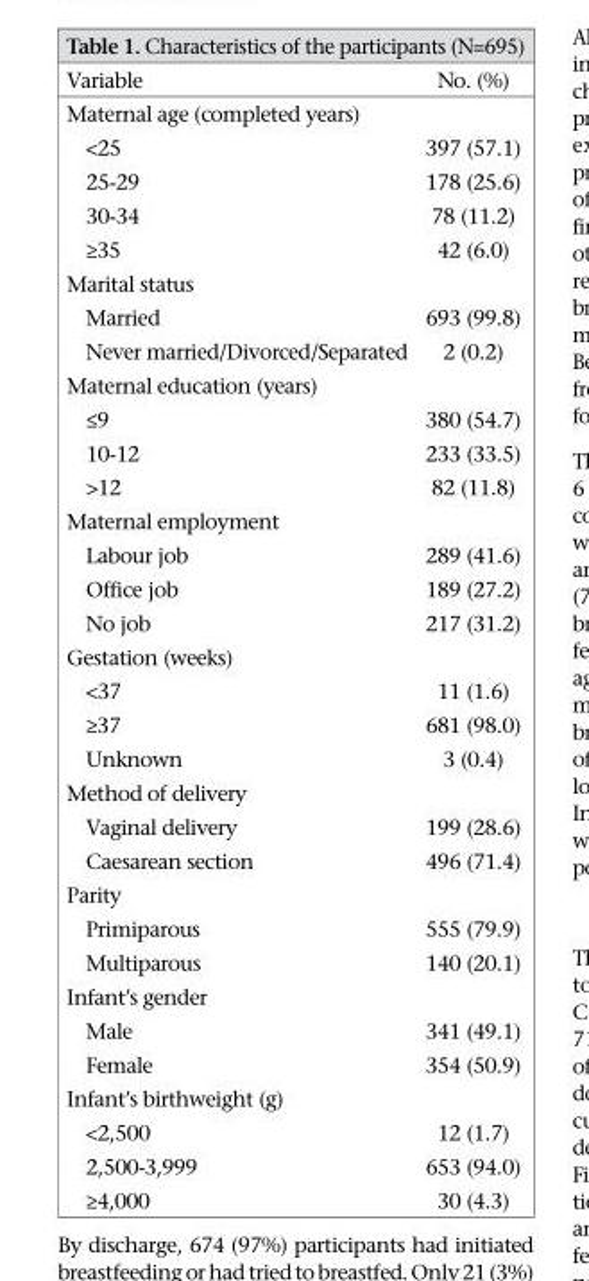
<table><thead><tr><td>Variable</td><td>No. (%)</td></tr></thead><tbody><tr><td colspan="2">Maternal age (completed years)</td></tr><tr><td>&lt;25</td><td>397 (57.1)</td></tr><tr><td>25-29</td><td>178 (25.6)</td></tr><tr><td>30-34</td><td>78 (11.2)</td></tr><tr><td>≥35</td><td>42 (6.0)</td></tr><tr><td colspan="2">Marital status</td></tr><tr><td>Married</td><td>693 (99.8)</td></tr><tr><td>Never married/Divorced/Separated</td><td>2 (0.2)</td></tr><tr><td colspan="2">Maternal education (years)</td></tr><tr><td>≤9</td><td>380 (54.7)</td></tr><tr><td>10-12</td><td>233 (33.5)</td></tr><tr><td>&gt;12</td><td>82 (11.8)</td></tr><tr><td colspan="2">Maternal employment</td></tr><tr><td>Labour job</td><td>289 (41.6)</td></tr><tr><td>Office job</td><td>189 (27.2)</td></tr><tr><td>No job</td><td>217 (31.2)</td></tr><tr><td colspan="2">Gestation (weeks)</td></tr><tr><td>&lt;37</td><td>11 (1.6)</td></tr><tr><td>≥37</td><td>681 (98.0)</td></tr><tr><td>Unknown</td><td>3 (0.4)</td></tr><tr><td colspan="2">Method of delivery</td></tr><tr><td>Vaginal delivery</td><td>199 (28.6)</td></tr><tr><td>Caesarean section</td><td>496 (71.4)</td></tr><tr><td colspan="2">Parity</td></tr><tr><td>Primiparous</td><td>555 (79.9)</td></tr><tr><td>Multiparous</td><td>140 (20.1)</td></tr><tr><td colspan="2">Infant’s gender</td></tr><tr><td>Male</td><td>341 (49.1)</td></tr><tr><td>Female</td><td>354 (50.9)</td></tr><tr><td colspan="2">Infant’s birthweight (g)</td></tr><tr><td>&lt;2,500</td><td>12 (1.7)</td></tr><tr><td>2,500-3,999</td><td>653 (94.0)</td></tr><tr><td>≥4,000</td><td>30 (4.3)</td></tr></tbody></table>